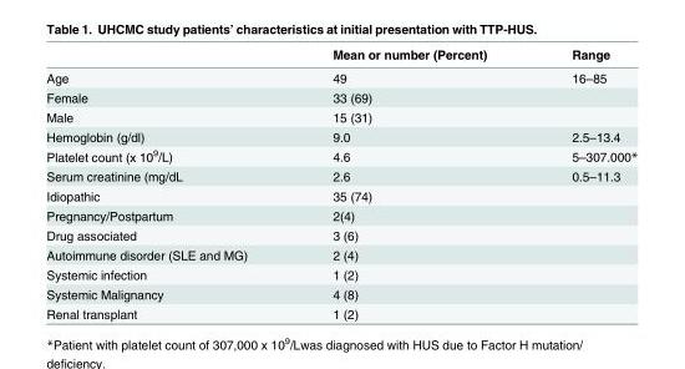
<table><thead><tr><td></td><td>Mean or number (Percent)</td><td>Range</td></tr></thead><tbody><tr><td>Age</td><td>49</td><td>16–85</td></tr><tr><td>Female</td><td>33 (69)</td><td></td></tr><tr><td>Male</td><td>15 (31)</td><td></td></tr><tr><td>Hemoglobin (g/dl)</td><td>9.0</td><td>2.5–13.4</td></tr><tr><td>Platelet count (x 10<sup>9</sup>/L)</td><td>4.6</td><td>5–307.000*</td></tr><tr><td>Serum creatinine (mg/dL</td><td>2.6</td><td>0.5–11.3</td></tr><tr><td>Idiopathic</td><td>35 (74)</td><td></td></tr><tr><td>Pregnancy/Postpartum</td><td>2(4)</td><td></td></tr><tr><td>Drug associated</td><td>3 (6)</td><td></td></tr><tr><td>Autoimmune disorder (SLE and MG)</td><td>2 (4)</td><td></td></tr><tr><td>Systemic infection</td><td>1 (2)</td><td></td></tr><tr><td>Systemic Malignancy</td><td>4 (8)</td><td></td></tr><tr><td>Renal transplant</td><td>1 (2)</td><td></td></tr></tbody></table>